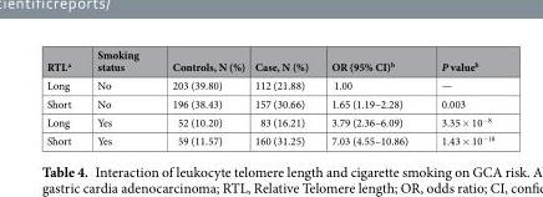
<table><thead><tr><td>RTL<sup>a</sup></td><td>Smoking status</td><td>Controls, N (%)</td><td>Case, N (%)</td><td>OR (95% CI)<sup>b</sup></td><td>P value<sup>b</sup></td></tr></thead><tbody><tr><td>Long</td><td>No</td><td>203 (39.80)</td><td>112 (21.88)</td><td>1.00</td><td>—</td></tr><tr><td>Short</td><td>No</td><td>196 (38.43)</td><td>157 (30.66)</td><td>1.65 (1.19–2.28)</td><td>0.003</td></tr><tr><td>Long</td><td>Yes</td><td>52 (10.20)</td><td>83 (16.21)</td><td>3.79 (2.36–6.09)</td><td>3.35 × 10<sup>−8</sup></td></tr><tr><td>Short</td><td>Yes</td><td>59 (11.57)</td><td>160 (31.25)</td><td>7.03 (4.55–10.86)</td><td>1.43 × 10<sup>−18</sup></td></tr></tbody></table>